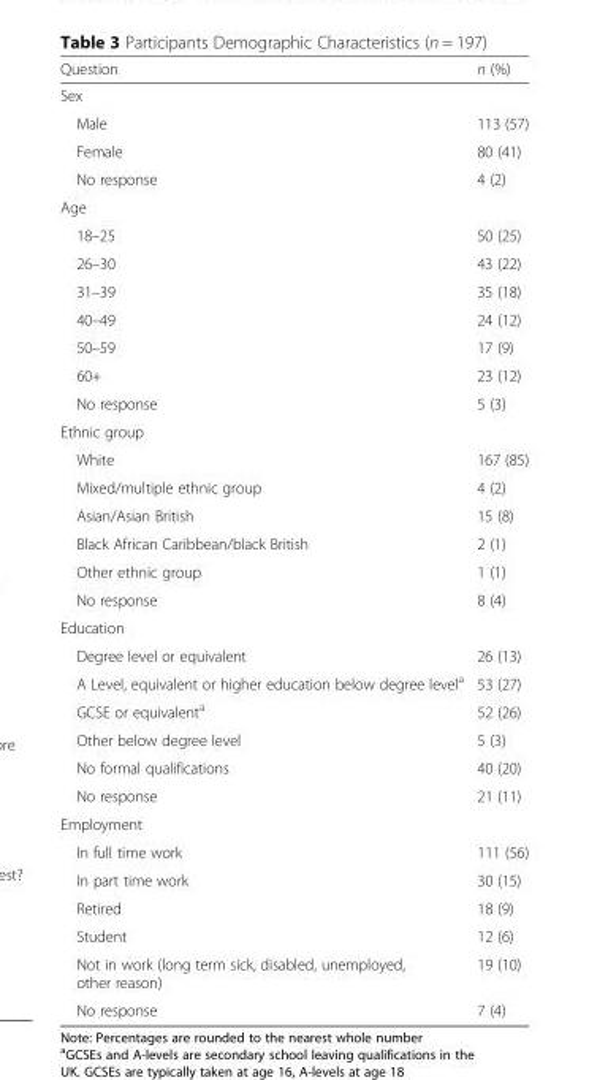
<table><thead><tr><td>Question</td><td>n (%)</td></tr></thead><tbody><tr><td colspan="2">Sex</td></tr><tr><td>Male</td><td>113 (57)</td></tr><tr><td>Female</td><td>80 (41)</td></tr><tr><td>No response</td><td>4 (2)</td></tr><tr><td colspan="2">Age</td></tr><tr><td>18–25</td><td>50 (25)</td></tr><tr><td>26–30</td><td>43 (22)</td></tr><tr><td>31–39</td><td>35 (18)</td></tr><tr><td>40–49</td><td>24 (12)</td></tr><tr><td>50–59</td><td>17 (9)</td></tr><tr><td>60+</td><td>23 (12)</td></tr><tr><td>No response</td><td>5 (3)</td></tr><tr><td colspan="2">Ethnic group</td></tr><tr><td>White</td><td>167 (85)</td></tr><tr><td>Mixed/multiple ethnic group</td><td>4 (2)</td></tr><tr><td>Asian/Asian British</td><td>15 (8)</td></tr><tr><td>Black African Caribbean/black British</td><td>2 (1)</td></tr><tr><td>Other ethnic group</td><td>1 (1)</td></tr><tr><td>No response</td><td>8 (4)</td></tr><tr><td colspan="2">Education</td></tr><tr><td>Degree level or equivalent</td><td>26 (13)</td></tr><tr><td>A Level, equivalent or higher education below degree level<sup>a</sup></td><td>53 (27)</td></tr><tr><td>GCSE or equivalent<sup>a</sup></td><td>52 (26)</td></tr><tr><td>Other below degree level</td><td>5 (3)</td></tr><tr><td>No formal qualifications</td><td>40 (20)</td></tr><tr><td>No response</td><td>21 (11)</td></tr><tr><td colspan="2">Employment</td></tr><tr><td>In full time work</td><td>111 (56)</td></tr><tr><td>In part time work</td><td>30 (15)</td></tr><tr><td>Retired</td><td>18 (9)</td></tr><tr><td>Student</td><td>12 (6)</td></tr><tr><td>Not in work (long term sick, disabled, unemployed, other reason)</td><td>19 (10)</td></tr><tr><td>No response</td><td>7 (4)</td></tr></tbody></table>